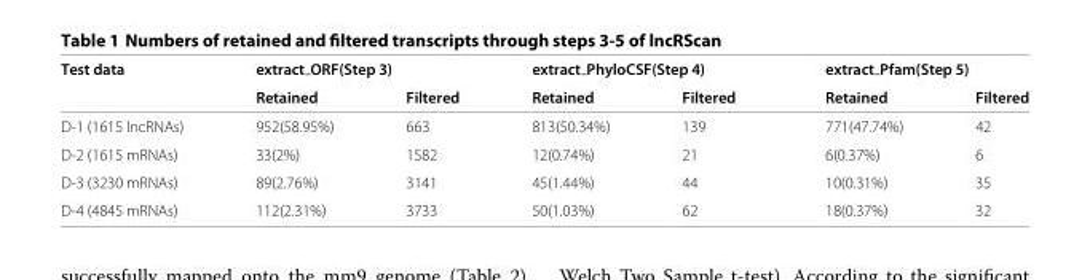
<table><thead><tr><td rowspan="2">Test data</td><td colspan="2">extract ORF(Step 3)</td><td colspan="2">extract PhyloCSF(Step 4)</td><td colspan="2">extract Pfam(Step 5)</td></tr><tr><td>Retained</td><td>Filtered</td><td>Retained</td><td>Filtered</td><td>Retained</td><td>Filtered</td></tr></thead><tbody><tr><td>D-1 (1615 lncRNAs)</td><td>952(58.95%)</td><td>663</td><td>813(50.34%)</td><td>139</td><td>771(47.74%)</td><td>42</td></tr><tr><td>D-2 (1615 mRNAs)</td><td>33(2%)</td><td>1582</td><td>12(0.74%)</td><td>21</td><td>6(0.37%)</td><td>6</td></tr><tr><td>D-3 (3230 mRNAs)</td><td>89(2.76%)</td><td>3141</td><td>45(1.44%)</td><td>44</td><td>10(0.31%)</td><td>35</td></tr><tr><td>D-4 (4845 mRNAs)</td><td>112(2.31%)</td><td>3733</td><td>50(1.03%)</td><td>62</td><td>18(0.37%)</td><td>32</td></tr></tbody></table>